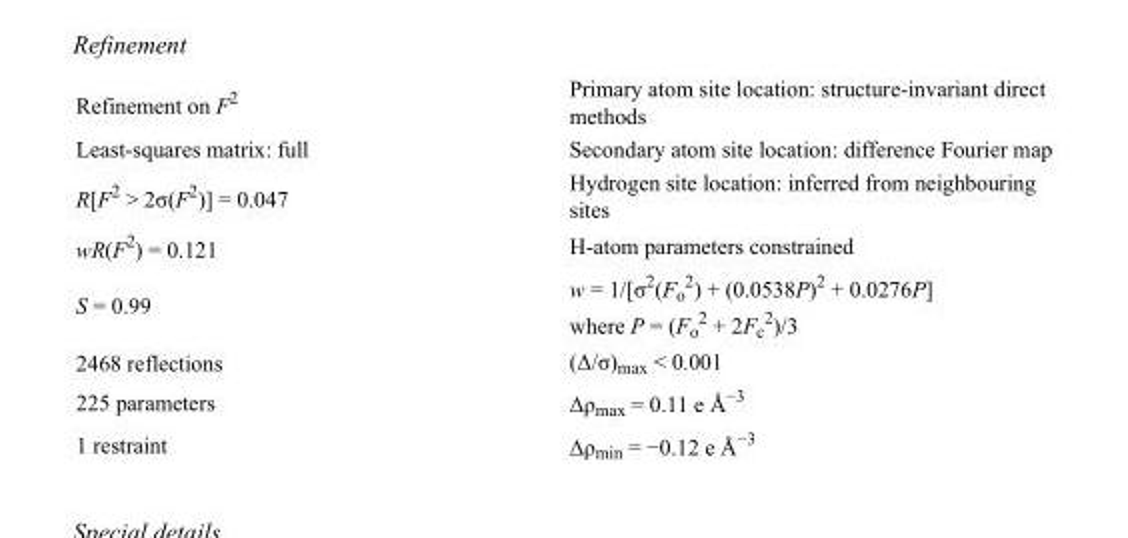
<table><tbody><tr><td>Refinement on F<sup>2</sup></td><td>Primary atom site location: structure-invariant direct methods</td></tr><tr><td>Least-squares matrix: full</td><td>Secondary atom site location: difference Fourier map</td></tr><tr><td>R[F<sup>2</sup> &gt; 2σ(F<sup>2</sup>)] = 0.047</td><td>Hydrogen site location: inferred from neighbouring sites</td></tr><tr><td>wR(F<sup>2</sup>) = 0.121</td><td>H-atom parameters constrained</td></tr><tr><td>S = 0.99</td><td>w = 1/[σ<sup>2</sup>(F<sub>o</sub> <sup>2</sup>) + (0.0538P)<sup>2</sup> + 0.0276P] where P = (F<sub>o</sub> <sup>2</sup> + 2F<sub>c</sub> <sup>2</sup>)/3</td></tr><tr><td>2468 reflections</td><td>(Δ/σ)<sub>max</sub> &lt; 0.001</td></tr><tr><td>225 parameters</td><td>Δρ<sub>max</sub> = 0.11 e Å<sup>−3</sup></td></tr><tr><td>1 restraint</td><td>Δρ<sub>min</sub> = −0.12 e Å<sup>−3</sup></td></tr></tbody></table>